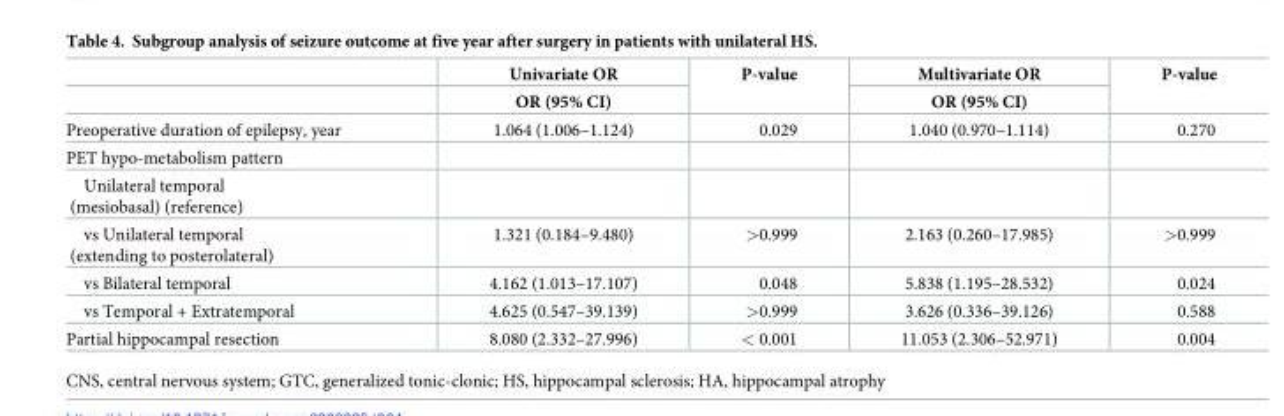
<table><thead><tr><td rowspan="2"></td><td rowspan="2">Univariate OR OR (95% CI)</td><td rowspan="2">P-value</td><td rowspan="2">Multivariate OR OR (95% CI)</td><td rowspan="2">P-value</td></tr><tr></tr></thead><tbody><tr><td>Preoperative duration of epilepsy, year</td><td>1.064 (1.006–1.124)</td><td>0.029</td><td>1.040 (0.970–1.114)</td><td>0.270</td></tr><tr><td colspan="5">PET hypo-metabolism pattern</td></tr><tr><td colspan="5">Unilateral temporal (mesiobasal) (reference)</td></tr><tr><td>vs Unilateral temporal (extending to posterolateral)</td><td>1.321 (0.184–9.480)</td><td>&gt;0.999</td><td>2.163 (0.260–17.985)</td><td>&gt;0.999</td></tr><tr><td>vs Bilateral temporal</td><td>4.162 (1.013–17.107)</td><td>0.048</td><td>5.838 (1.195–28.532)</td><td>0.024</td></tr><tr><td>vs Temporal + Extratemporal</td><td>4.625 (0.547–39.139)</td><td>&gt;0.999</td><td>3.626 (0.336–39.126)</td><td>0.588</td></tr><tr><td>Partial hippocampal resection</td><td>8.080 (2.332–27.996)</td><td>&lt; 0.001</td><td>11.053 (2.306–52.971)</td><td>0.004</td></tr></tbody></table>